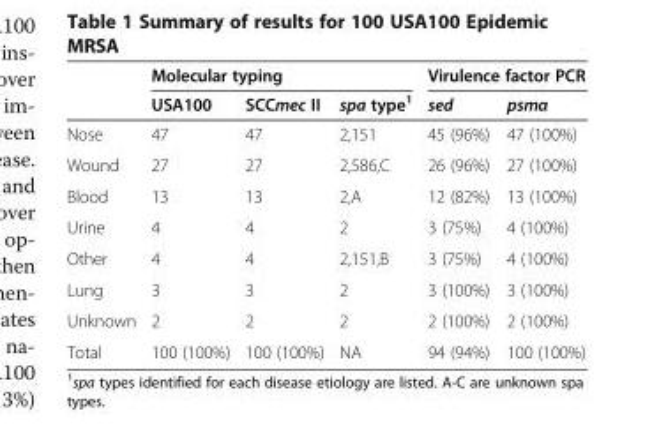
<table><thead><tr><td rowspan="2"></td><td colspan="3">Molecular typing</td><td colspan="2">Virulence factor PCR</td></tr><tr><td>USA100</td><td>SCCmec II</td><td>spa type<sup>1</sup></td><td>sed</td><td>psmα</td></tr></thead><tbody><tr><td>Nose</td><td>47</td><td>47</td><td>2,151</td><td>45 (96%)</td><td>47 (100%)</td></tr><tr><td>Wound</td><td>27</td><td>27</td><td>2,586,C</td><td>26 (96%)</td><td>27 (100%)</td></tr><tr><td>Blood</td><td>13</td><td>13</td><td>2,A</td><td>12 (82%)</td><td>13 (100%)</td></tr><tr><td>Urine</td><td>4</td><td>4</td><td>2</td><td>3 (75%)</td><td>4 (100%)</td></tr><tr><td>Other</td><td>4</td><td>4</td><td>2,151,B</td><td>3 (75%)</td><td>4 (100%)</td></tr><tr><td>Lung</td><td>3</td><td>3</td><td>2</td><td>3 (100%)</td><td>3 (100%)</td></tr><tr><td>Unknown</td><td>2</td><td>2</td><td>2</td><td>2 (100%)</td><td>2 (100%)</td></tr><tr><td>Total</td><td>100 (100%)</td><td>100 (100%)</td><td>NA</td><td>94 (94%)</td><td>100 (100%)</td></tr></tbody></table>